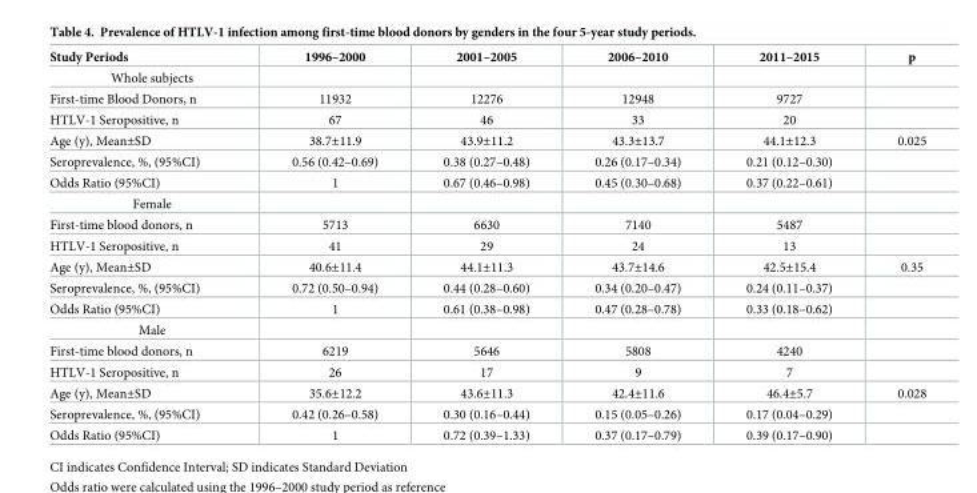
<table><thead><tr><td>Study Periods</td><td>1996–2000</td><td>2001–2005</td><td>2006–2010</td><td>2011–2015</td><td>p</td></tr></thead><tbody><tr><td colspan="6">Whole subjects</td></tr><tr><td>First-time Blood Donors, n</td><td>11932</td><td>12276</td><td>12948</td><td>9727</td><td></td></tr><tr><td>HTLV-1 Seropositive, n</td><td>67</td><td>46</td><td>33</td><td>20</td><td></td></tr><tr><td>Age (y), Mean±SD</td><td>38.7±11.9</td><td>43.9±11.2</td><td>43.3±13.7</td><td>44.1±12.3</td><td>0.025</td></tr><tr><td>Seroprevalence, %, (95%CI)</td><td>0.56 (0.42–0.69)</td><td>0.38 (0.27–0.48)</td><td>0.26 (0.17–0.34)</td><td>0.21 (0.12–0.30)</td><td></td></tr><tr><td>Odds Ratio (95%CI)</td><td>1</td><td>0.67 (0.46–0.98)</td><td>0.45 (0.30–0.68)</td><td>0.37 (0.22–0.61)</td><td></td></tr><tr><td colspan="6">Female</td></tr><tr><td>First-time blood donors, n</td><td>5713</td><td>6630</td><td>7140</td><td>5487</td><td></td></tr><tr><td>HTLV-1 Seropositive, n</td><td>41</td><td>29</td><td>24</td><td>13</td><td></td></tr><tr><td>Age (y), Mean±SD</td><td>40.6±11.4</td><td>44.1±11.3</td><td>43.7±14.6</td><td>42.5±15.4</td><td>0.35</td></tr><tr><td>Seroprevalence, %, (95%CI)</td><td>0.72 (0.50–0.94)</td><td>0.44 (0.28–0.60)</td><td>0.34 (0.20–0.47)</td><td>0.24 (0.11–0.37)</td><td></td></tr><tr><td>Odds Ratio (95%CI)</td><td>1</td><td>0.61 (0.38–0.98)</td><td>0.47 (0.28–0.78)</td><td>0.33 (0.18–0.62)</td><td></td></tr><tr><td colspan="6">Male</td></tr><tr><td>First-time blood donors, n</td><td>6219</td><td>5646</td><td>5808</td><td>4240</td><td></td></tr><tr><td>HTLV-1 Seropositive, n</td><td>26</td><td>17</td><td>9</td><td>7</td><td></td></tr><tr><td>Age (y), Mean±SD</td><td>35.6±12.2</td><td>43.6±11.3</td><td>42.4±11.6</td><td>46.4±5.7</td><td>0.028</td></tr><tr><td>Seroprevalence, %, (95%CI)</td><td>0.42 (0.26–0.58)</td><td>0.30 (0.16–0.44)</td><td>0.15 (0.05–0.26)</td><td>0.17 (0.04–0.29)</td><td></td></tr><tr><td>Odds Ratio (95%CI)</td><td>1</td><td>0.72 (0.39–1.33)</td><td>0.37 (0.17–0.79)</td><td>0.39 (0.17–0.90)</td><td></td></tr></tbody></table>